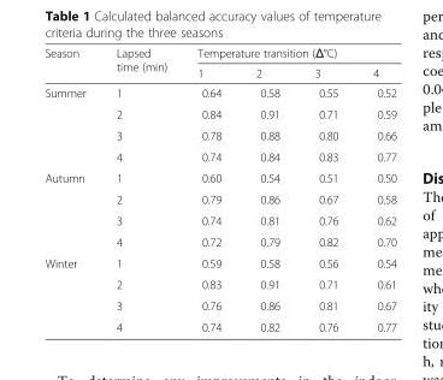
<table><thead><tr><td rowspan="2">Season</td><td rowspan="2">Lapsed time (min)</td><td colspan="4">Temperature transition (Δ°C)</td></tr><tr><td>1</td><td>2</td><td>3</td><td>4</td></tr></thead><tbody><tr><td rowspan="4">Summer</td><td>1</td><td>0.64</td><td>0.58</td><td>0.55</td><td>0.52</td></tr><tr><td>2</td><td>0.84</td><td>0.91</td><td>0.71</td><td>0.59</td></tr><tr><td>3</td><td>0.78</td><td>0.88</td><td>0.80</td><td>0.66</td></tr><tr><td>4</td><td>0.74</td><td>0.84</td><td>0.83</td><td>0.77</td></tr><tr><td rowspan="4">Autumn</td><td>1</td><td>0.60</td><td>0.54</td><td>0.51</td><td>0.50</td></tr><tr><td>2</td><td>0.79</td><td>0.86</td><td>0.67</td><td>0.58</td></tr><tr><td>3</td><td>0.74</td><td>0.81</td><td>0.76</td><td>0.62</td></tr><tr><td>4</td><td>0.72</td><td>0.79</td><td>0.82</td><td>0.70</td></tr><tr><td rowspan="4">Winter</td><td>1</td><td>0.59</td><td>0.58</td><td>0.56</td><td>0.54</td></tr><tr><td>2</td><td>0.83</td><td>0.91</td><td>0.71</td><td>0.61</td></tr><tr><td>3</td><td>0.76</td><td>0.86</td><td>0.81</td><td>0.67</td></tr><tr><td>4</td><td>0.74</td><td>0.82</td><td>0.76</td><td>0.77</td></tr></tbody></table>